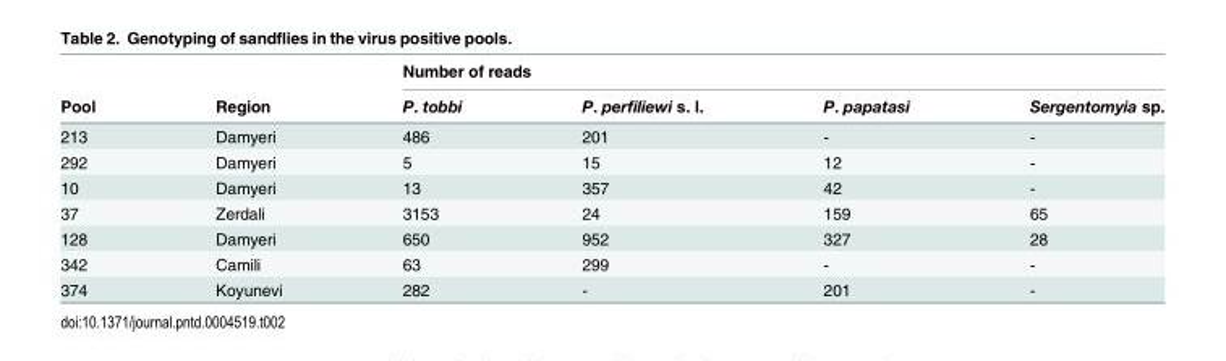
<table><thead><tr><td rowspan="2">Pool</td><td rowspan="2">Region</td><td colspan="4">Number of reads</td></tr><tr><td>P. tobbi</td><td>P. perfiliewi s. l.</td><td>P. papatasi</td><td>Sergentomyia sp.</td></tr></thead><tbody><tr><td>213</td><td>Damyeri</td><td>486</td><td>201</td><td>-</td><td>-</td></tr><tr><td>292</td><td>Damyeri</td><td>5</td><td>15</td><td>12</td><td>-</td></tr><tr><td>10</td><td>Damyeri</td><td>13</td><td>357</td><td>42</td><td>-</td></tr><tr><td>37</td><td>Zerdali</td><td>3153</td><td>24</td><td>159</td><td>65</td></tr><tr><td>128</td><td>Damyeri</td><td>650</td><td>952</td><td>327</td><td>28</td></tr><tr><td>342</td><td>Camili</td><td>63</td><td>299</td><td>-</td><td>-</td></tr><tr><td>374</td><td>Koyunevi</td><td>282</td><td>-</td><td>201</td><td>-</td></tr></tbody></table>